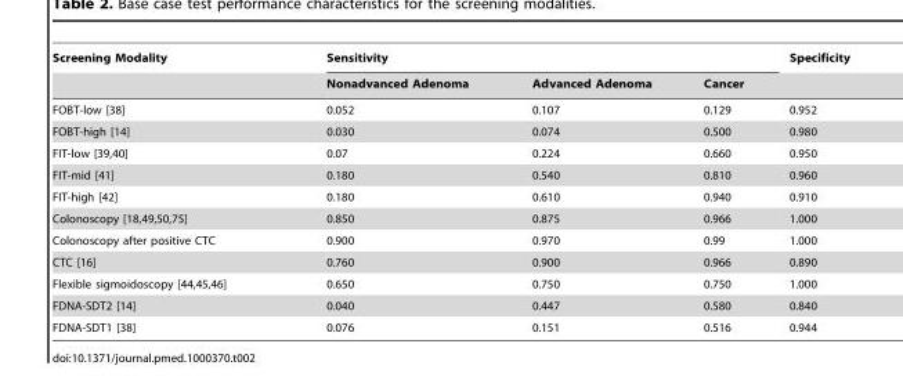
<table><thead><tr><td rowspan="2">Screening Modality</td><td colspan="3">Sensitivity</td><td rowspan="2">Specificity</td></tr><tr><td>Nonadvanced Adenoma</td><td>Advanced Adenoma</td><td>Cancer</td></tr></thead><tbody><tr><td>FOBT-low [38]</td><td>0.052</td><td>0.107</td><td>0.129</td><td>0.952</td></tr><tr><td>FOBT-high [14]</td><td>0.030</td><td>0.074</td><td>0.500</td><td>0.980</td></tr><tr><td>FIT-low [39,40]</td><td>0.07</td><td>0.224</td><td>0.660</td><td>0.950</td></tr><tr><td>FIT-mid [41]</td><td>0.180</td><td>0.540</td><td>0.810</td><td>0.960</td></tr><tr><td>FIT-high [42]</td><td>0.180</td><td>0.610</td><td>0.940</td><td>0.910</td></tr><tr><td>Colonoscopy [18,49,50,75]</td><td>0.850</td><td>0.875</td><td>0.966</td><td>1.000</td></tr><tr><td>Colonoscopy after positive CTC</td><td>0.900</td><td>0.970</td><td>0.99</td><td>1.000</td></tr><tr><td>CTC [16]</td><td>0.760</td><td>0.900</td><td>0.966</td><td>0.890</td></tr><tr><td>Flexible sigmoidoscopy [44,45,46]</td><td>0.650</td><td>0.750</td><td>0.750</td><td>1.000</td></tr><tr><td>FDNA-SDT2 [14]</td><td>0.040</td><td>0.447</td><td>0.580</td><td>0.840</td></tr><tr><td>FDNA-SDT1 [38]</td><td>0.076</td><td>0.151</td><td>0.516</td><td>0.944</td></tr></tbody></table>